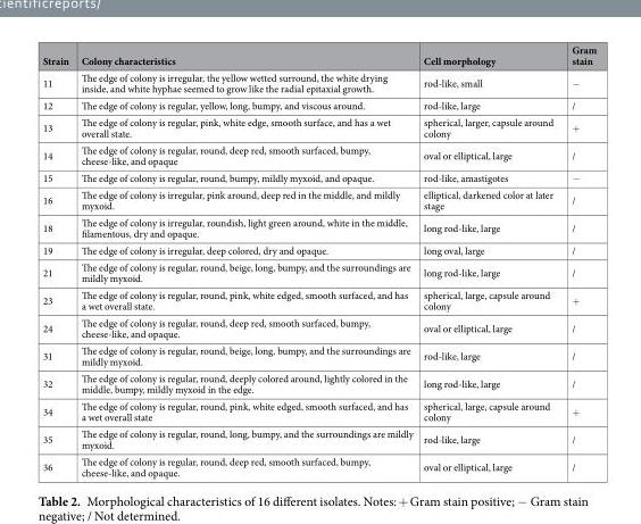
<table><thead><tr><td>Strain</td><td>Colony characteristics</td><td>Cell morphology</td><td>Gram stain</td></tr></thead><tbody><tr><td>11</td><td>The edge of colony is irregular, the yellow wetted surround, the white drying inside, and white hyphae seemed to grow like the radial epitaxial growth.</td><td>rod-like, small</td><td>−</td></tr><tr><td>12</td><td>The edge of colony is regular, yellow, long, bumpy, and viscous around.</td><td>rod-like, large</td><td>/</td></tr><tr><td>13</td><td>The edge of colony is regular, pink, white edge, smooth surface, and has a wet overall state.</td><td>spherical, larger, capsule around colony</td><td>+</td></tr><tr><td>14</td><td>The edge of colony is regular, round, deep red, smooth surfaced, bumpy, cheese-like, and opaque</td><td>oval or elliptical, large</td><td>/</td></tr><tr><td>15</td><td>The edge of colony is regular, round, bumpy, mildly myxoid, and opaque.</td><td>rod-like, amastigotes</td><td>−</td></tr><tr><td>16</td><td>The edge of colony is irregular, pink around, deep red in the middle, and mildly myxoid.</td><td>elliptical, darkened color at later stage</td><td>/</td></tr><tr><td>18</td><td>The edge of colony is irregular, roundish, light green around, white in the middle, filamentous, dry and opaque.</td><td>long rod-like, large</td><td>/</td></tr><tr><td>19</td><td>The edge of colony is irregular, deep colored, dry and opaque.</td><td>long oval, large</td><td>/</td></tr><tr><td>21</td><td>The edge of colony is regular, round, beige, long, bumpy, and the surroundings are mildly myxoid.</td><td>long rod-like, large</td><td>/</td></tr><tr><td>23</td><td>The edge of colony is regular, round, pink, white edged, smooth surfaced, and has a wet overall state.</td><td>spherical, large, capsule around colony</td><td>+</td></tr><tr><td>24</td><td>The edge of colony is regular, round, deep red, smooth surfaced, bumpy, cheese-like, and opaque.</td><td>oval or elliptical, large</td><td>/</td></tr><tr><td>31</td><td>The edge of colony is regular, round, beige, long, bumpy, and the surroundings are mildly myxoid.</td><td>rod-like, large</td><td>/</td></tr><tr><td>32</td><td>The edge of colony is regular, round, deeply colored around, lightly colored in the middle, bumpy, mildly myxoid in the edge.</td><td>long rod-like, large</td><td>/</td></tr><tr><td>34</td><td>The edge of colony is regular, round, pink, white edged, smooth surfaced, and has a wet overall state</td><td>spherical, large, capsule around colony</td><td>+</td></tr><tr><td>35</td><td>The edge of colony is regular, round, long, bumpy, and the surroundings are mildly myxoid.</td><td>rod-like, large</td><td>/</td></tr><tr><td>36</td><td>The edge of colony is regular, round, deep red, smooth surfaced, bumpy, cheese-like, and opaque.</td><td>oval or elliptical, large</td><td>/</td></tr></tbody></table>